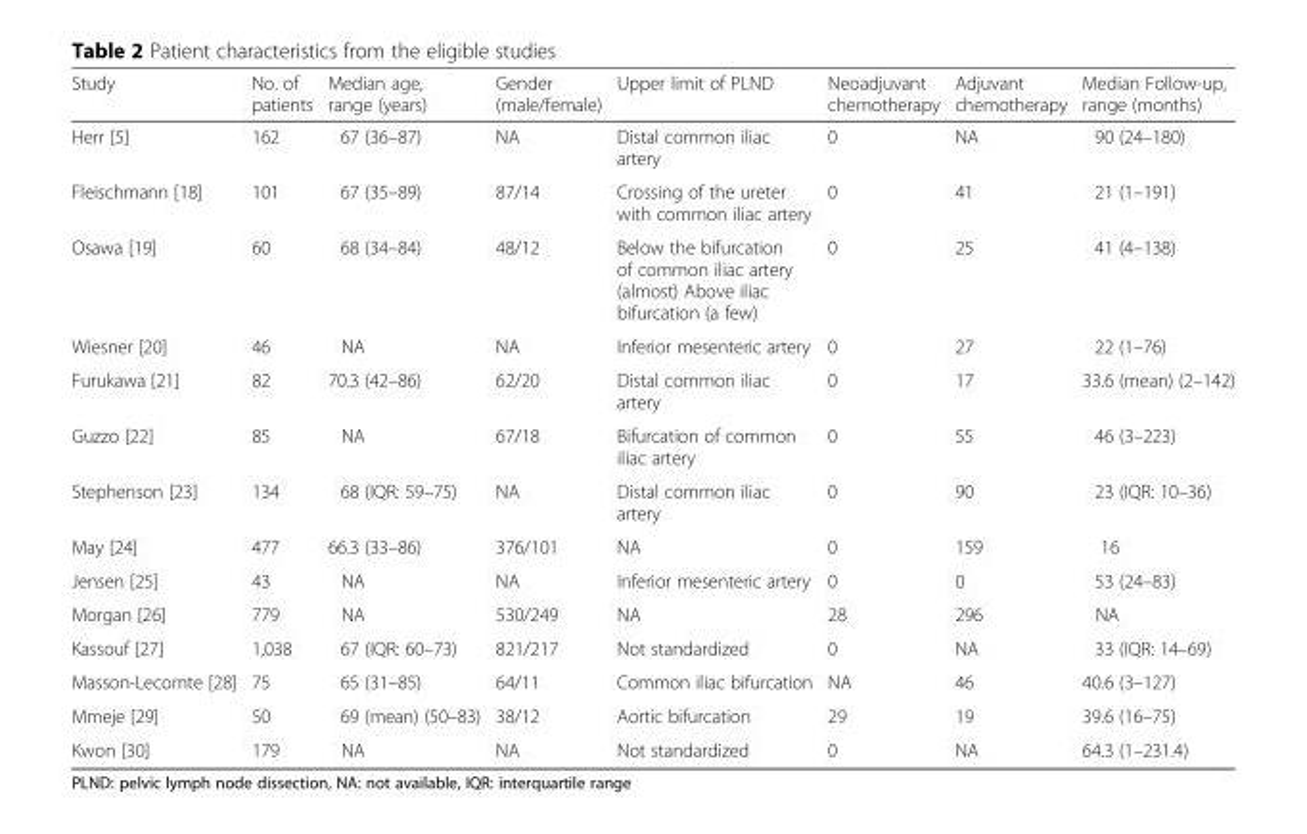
<table><thead><tr><td>Study</td><td>No. of patients</td><td>Median age, range (years)</td><td>Gender (male/female)</td><td>Upper limit of PLND</td><td>Neoadjuvant chemotherapy</td><td>Adjuvant chemotherapy</td><td>Median Follow-up, range (months)</td></tr></thead><tbody><tr><td>Herr [5]</td><td>162</td><td>67 (36–87)</td><td>NA</td><td>Distal common iliac artery</td><td>0</td><td>NA</td><td>90 (24–180)</td></tr><tr><td>Fleischmann [18]</td><td>101</td><td>67 (35–89)</td><td>87/14</td><td>Crossing of the ureter with common iliac artery</td><td>0</td><td>41</td><td>21 (1–191)</td></tr><tr><td>Osawa [19]</td><td>60</td><td>68 (34–84)</td><td>48/12</td><td>Below the bifurcation of common iliac artery (almost) Above iliac bifurcation (a few)</td><td>0</td><td>25</td><td>41 (4–138)</td></tr><tr><td>Wiesner [20]</td><td>46</td><td>NA</td><td>NA</td><td>Inferior mesenteric artery</td><td>0</td><td>27</td><td>22 (1–76)</td></tr><tr><td>Furukawa [21]</td><td>82</td><td>70.3 (42–86)</td><td>62/20</td><td>Distal common iliac artery</td><td>0</td><td>17</td><td>33.6 (mean) (2–142)</td></tr><tr><td>Guzzo [22]</td><td>85</td><td>NA</td><td>67/18</td><td>Bifurcation of common iliac artery</td><td>0</td><td>55</td><td>46 (3–223)</td></tr><tr><td>Stephenson [23]</td><td>134</td><td>68 (IQR: 59–75)</td><td>NA</td><td>Distal common iliac artery</td><td>0</td><td>90</td><td>23 (IQR: 10–36)</td></tr><tr><td>May [24]</td><td>477</td><td>66.3 (33–86)</td><td>376/101</td><td>NA</td><td>0</td><td>159</td><td>16</td></tr><tr><td>Jensen [25]</td><td>43</td><td>NA</td><td>NA</td><td>Inferior mesenteric artery</td><td>0</td><td>0</td><td>53 (24–83)</td></tr><tr><td>Morgan [26]</td><td>779</td><td>NA</td><td>530/249</td><td>NA</td><td>28</td><td>296</td><td>NA</td></tr><tr><td>Kassouf [27]</td><td>1,038</td><td>67 (IQR: 60–73)</td><td>821/217</td><td>Not standardized</td><td>0</td><td>NA</td><td>33 (IQR: 14–69)</td></tr><tr><td>Masson-Lecomte [28]</td><td>75</td><td>65 (31–85)</td><td>64/11</td><td>Common iliac bifurcation</td><td>NA</td><td>46</td><td>40.6 (3–127)</td></tr><tr><td>Mmeje [29]</td><td>50</td><td>69 (mean) (50–83)</td><td>38/12</td><td>Aortic bifurcation</td><td>29</td><td>19</td><td>39.6 (16–75)</td></tr><tr><td>Kwon [30]</td><td>179</td><td>NA</td><td>NA</td><td>Not standardized</td><td>0</td><td>NA</td><td>64.3 (1–231.4)</td></tr></tbody></table>